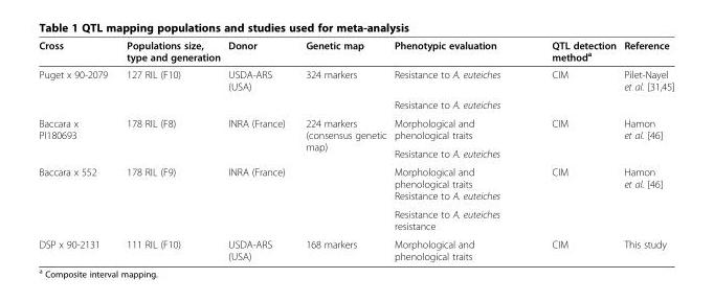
<table><thead><tr><td>Cross</td><td>Populations size, type and generation</td><td>Donor</td><td>Genetic map</td><td>Phenotypic evaluation</td><td>QTL detection method<sup>a</sup></td><td>Reference</td></tr></thead><tbody><tr><td rowspan="2">Puget x 90-2079</td><td>127 RIL (F10)</td><td>USDA-ARS (USA)</td><td>324 markers</td><td>Resistance to A. euteiches</td><td>CIM</td><td>Pilet-Nayel et al. [31,45]</td></tr><tr><td></td><td></td><td></td><td>Resistance to A. euteiches</td><td></td><td></td></tr><tr><td rowspan="2">Baccara x PI180693</td><td rowspan="2">178 RIL (F8)</td><td rowspan="2">INRA (France)</td><td rowspan="2">224 markers (consensus genetic map)</td><td>Morphological and phenological traits</td><td rowspan="2">CIM</td><td rowspan="2">Hamon et al. [46]</td></tr><tr><td>Resistance to A. euteiches</td></tr><tr><td rowspan="2">Baccara x 552</td><td rowspan="2">178 RIL (F9)</td><td rowspan="2">INRA (France)</td><td rowspan="2"></td><td>Morphological and phenological traits Resistance to A. euteiches</td><td rowspan="2">CIM</td><td rowspan="2">Hamon et al. [46]</td></tr><tr><td>Resistance to A. euteiches resistance</td></tr><tr><td>DSP x 90-2131</td><td>111 RIL (F10)</td><td>USDA-ARS (USA)</td><td>168 markers</td><td>Morphological and phenological traits</td><td>CIM</td><td>This study</td></tr></tbody></table>